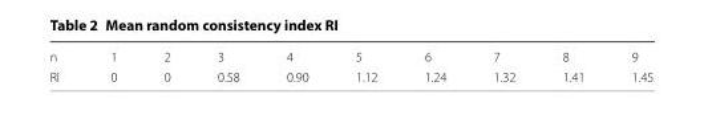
<table><tbody><tr><td>n</td><td>1</td><td>2</td><td>3</td><td>4</td><td>5</td><td>6</td><td>7</td><td>8</td><td>9</td></tr><tr><td>RI</td><td>0</td><td>0</td><td>0.58</td><td>0.90</td><td>1.12</td><td>1.24</td><td>1.32</td><td>1.41</td><td>1.45</td></tr></tbody></table>